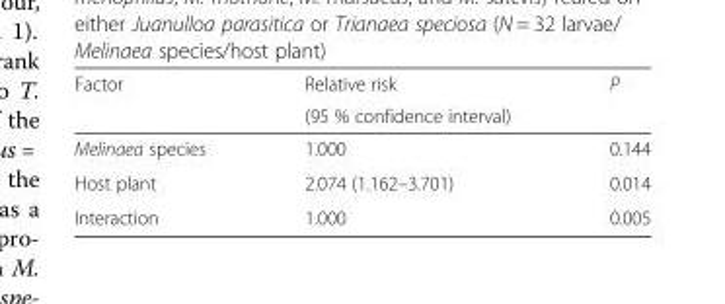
<table><thead><tr><td rowspan="2">Factor</td><td rowspan="2">Relative risk (95 % confidence interval)</td><td rowspan="2">P</td></tr><tr></tr></thead><tbody><tr><td>Melinaea species</td><td>1.000</td><td>0.144</td></tr><tr><td>Host plant</td><td>2.074 (1.162–3.701)</td><td>0.014</td></tr><tr><td>Interaction</td><td>1.000</td><td>0.005</td></tr></tbody></table>